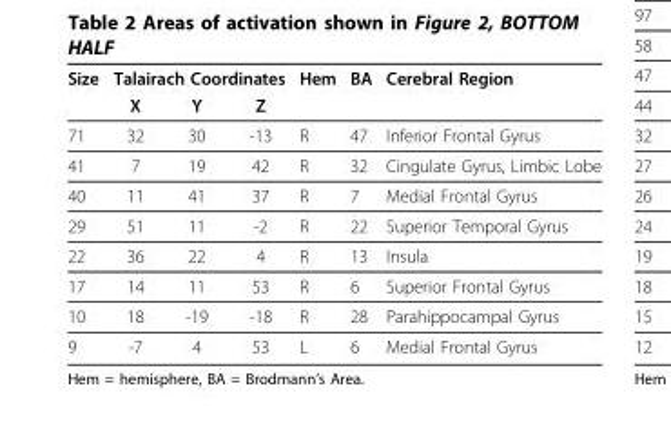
<table><thead><tr><td rowspan="2">Size</td><td colspan="3">Talairach Coordinates</td><td rowspan="2">Hem</td><td rowspan="2">BA</td><td rowspan="2">Cerebral Region</td></tr><tr><td>X</td><td>Y</td><td>Z</td></tr></thead><tbody><tr><td>71</td><td>32</td><td>30</td><td>-13</td><td>R</td><td>47</td><td>Inferior Frontal Gyrus</td></tr><tr><td>41</td><td>7</td><td>19</td><td>42</td><td>R</td><td>32</td><td>Cingulate Gyrus, Limbic Lobe</td></tr><tr><td>40</td><td>11</td><td>41</td><td>37</td><td>R</td><td>7</td><td>Medial Frontal Gyrus</td></tr><tr><td>29</td><td>51</td><td>11</td><td>-2</td><td>R</td><td>22</td><td>Superior Temporal Gyrus</td></tr><tr><td>22</td><td>36</td><td>22</td><td>4</td><td>R</td><td>13</td><td>Insula</td></tr><tr><td>17</td><td>14</td><td>11</td><td>53</td><td>R</td><td>6</td><td>Superior Frontal Gyrus</td></tr><tr><td>10</td><td>18</td><td>-19</td><td>-18</td><td>R</td><td>28</td><td>Parahippocampal Gyrus</td></tr><tr><td>9</td><td>-7</td><td>4</td><td>53</td><td>L</td><td>6</td><td>Medial Frontal Gyrus</td></tr></tbody></table>